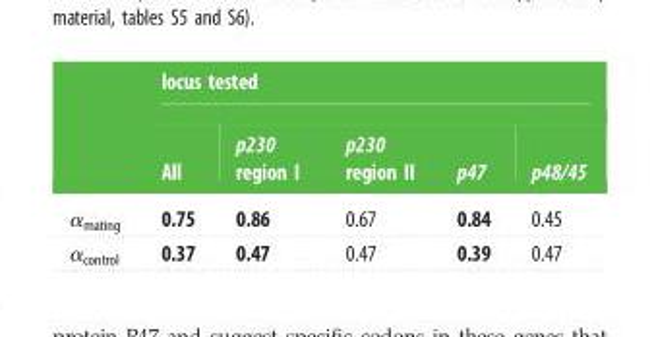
<table><thead><tr><td rowspan="2"></td><td colspan="5">locus tested</td></tr><tr><td>All</td><td>p230 region I</td><td>p230 region II</td><td>p47</td><td>p48/45</td></tr></thead><tbody><tr><td>α<sub>mating</sub></td><td>0.75</td><td>0.86</td><td>0.67</td><td>0.84</td><td>0.45</td></tr><tr><td>α<sub>control</sub></td><td>0.37</td><td>0.47</td><td>0.47</td><td>0.39</td><td>0.47</td></tr></tbody></table>